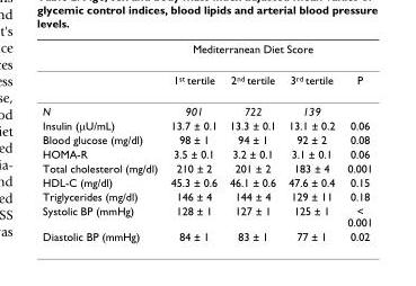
<table><thead><tr><td rowspan="2"></td><td colspan="3">Mediterranean Diet Score</td><td rowspan="2">P</td></tr><tr><td>1<sup>st</sup> tertile</td><td>2<sup>nd</sup> tertile</td><td>3<sup>rd</sup> tertile</td></tr></thead><tbody><tr><td>N</td><td>901</td><td>722</td><td>139</td><td></td></tr><tr><td>Insulin (µU/mL)</td><td>13.7 ± 0.1</td><td>13.3 ± 0.1</td><td>13.1 ± 0.2</td><td>0.06</td></tr><tr><td>Blood glucose (mg/dl)</td><td>98 ± 1</td><td>94 ± 1</td><td>92 ± 2</td><td>0.08</td></tr><tr><td>HOMA-R</td><td>3.5 ± 0.1</td><td>3.2 ± 0.1</td><td>3.1 ± 0.1</td><td>0.06</td></tr><tr><td>Total cholesterol (mg/dl)</td><td>210 ± 2</td><td>201 ± 2</td><td>183 ± 4</td><td>0.001</td></tr><tr><td>HDL-C (mg/dl)</td><td>45.3 ± 0.6</td><td>46.1 ± 0.6</td><td>47.6 ± 0.4</td><td>0.15</td></tr><tr><td>Triglycerides (mg/dl)</td><td>146 ± 4</td><td>144 ± 4</td><td>129 ± 11</td><td>0.18</td></tr><tr><td>Systolic BP (mmHg)</td><td>128 ± 1</td><td>127 ± 1</td><td>125 ± 1</td><td>&lt; 0.001</td></tr><tr><td>Diastolic BP (mmHg)</td><td>84 ± 1</td><td>83 ± 1</td><td>77 ± 1</td><td>0.02</td></tr></tbody></table>